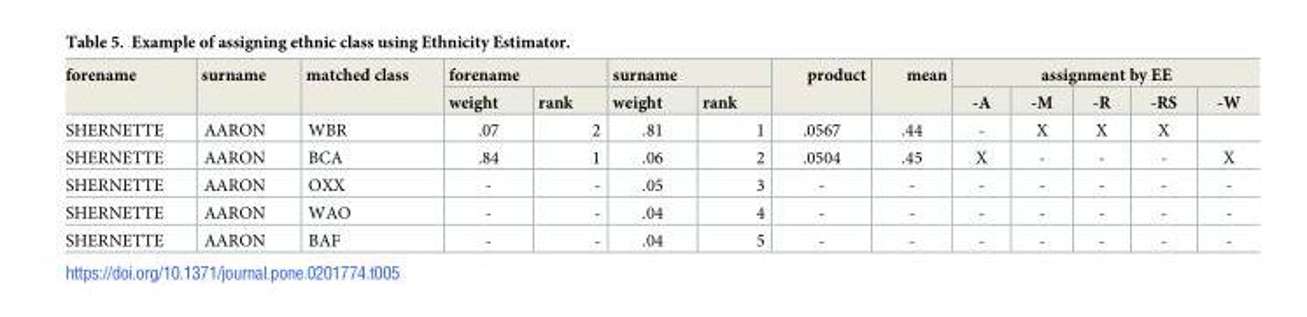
<table><thead><tr><td rowspan="2">forename</td><td rowspan="2">surname</td><td rowspan="2">matched class</td><td colspan="2">forename</td><td colspan="2">surname</td><td rowspan="2">product</td><td rowspan="2">mean</td><td colspan="5">assignment by EE</td></tr><tr><td>weight</td><td>rank</td><td>weight</td><td>rank</td><td>-A</td><td>-M</td><td>-R</td><td>-RS</td><td>-W</td></tr></thead><tbody><tr><td>SHERNETTE</td><td>AARON</td><td>WBR</td><td>.07</td><td>2</td><td>.81</td><td>1</td><td>.0567</td><td>.44</td><td>-</td><td>X</td><td>X</td><td>X</td><td></td></tr><tr><td>SHERNETTE</td><td>AARON</td><td>BCA</td><td>.84</td><td>1</td><td>.06</td><td>2</td><td>.0504</td><td>.45</td><td>X</td><td>-</td><td>-</td><td>-</td><td>X</td></tr><tr><td>SHERNETTE</td><td>AARON</td><td>OXX</td><td>-</td><td>-</td><td>.05</td><td>3</td><td>-</td><td>-</td><td>-</td><td>-</td><td>-</td><td>-</td><td>-</td></tr><tr><td>SHERNETTE</td><td>AARON</td><td>WAO</td><td>-</td><td>-</td><td>.04</td><td>4</td><td>-</td><td>-</td><td>-</td><td>-</td><td>-</td><td>-</td><td>-</td></tr><tr><td>SHERNETTE</td><td>AARON</td><td>BAF</td><td>-</td><td>-</td><td>.04</td><td>5</td><td>-</td><td>-</td><td>-</td><td>-</td><td>-</td><td>-</td><td>-</td></tr></tbody></table>